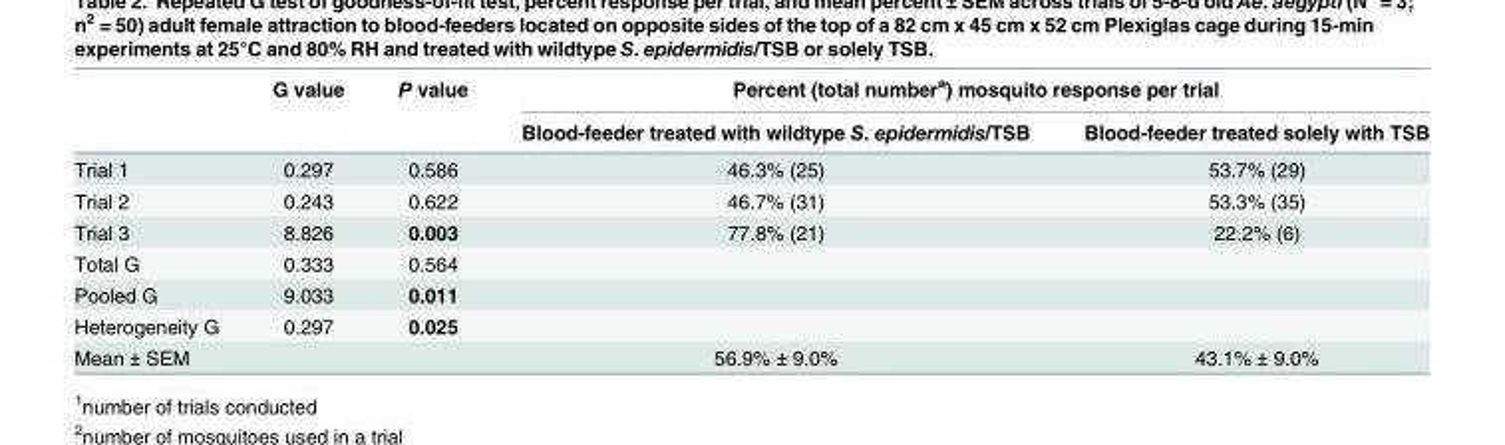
<table><thead><tr><td rowspan="2"></td><td rowspan="2">G value</td><td rowspan="2">P value</td><td colspan="2">Percent (total number<sup>a</sup>) mosquito response per trial</td></tr><tr><td>Blood-feeder treated with wildtype S. epidermidis/TSB</td><td>Blood-feeder treated solely with TSB</td></tr></thead><tbody><tr><td>Trial 1</td><td>0.297</td><td>0.586</td><td>46.3% (25)</td><td>53.7% (29)</td></tr><tr><td>Trial 2</td><td>0.243</td><td>0.622</td><td>46.7% (31)</td><td>53.3% (35)</td></tr><tr><td>Trial 3</td><td>8.826</td><td>0.003</td><td>77.8% (21)</td><td>22.2% (6)</td></tr><tr><td>Total G</td><td>0.333</td><td>0.564</td><td></td><td></td></tr><tr><td>Pooled G</td><td>9.033</td><td>0.011</td><td></td><td></td></tr><tr><td>Heterogeneity G</td><td>0.297</td><td>0.025</td><td></td><td></td></tr><tr><td>Mean ± SEM</td><td></td><td></td><td>56.9% ± 9.0%</td><td>43.1% ± 9.0%</td></tr></tbody></table>